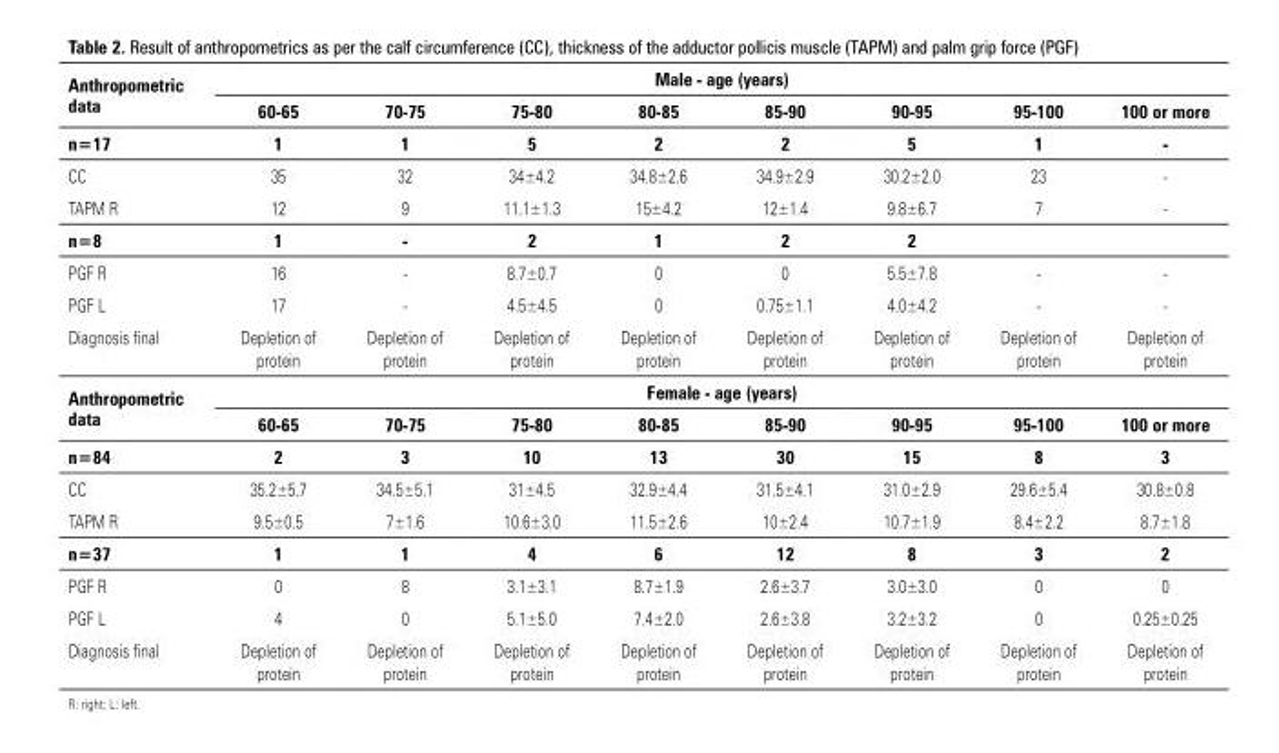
<table><thead><tr><td rowspan="3">Anthropometric data n=17</td><td colspan="8">Male - age (years)</td></tr><tr><td rowspan="2">60-65 1</td><td rowspan="2">70-75 1</td><td rowspan="2">75-80 5</td><td rowspan="2">80-85 2</td><td rowspan="2">85-90 2</td><td rowspan="2">90-95 5</td><td rowspan="2">95-100 1</td><td rowspan="2">100 or more -</td></tr><tr></tr></thead><tbody><tr><td>CC</td><td>35</td><td>32</td><td>34±4.2</td><td>34.8±2.6</td><td>34.9±2.9</td><td>30.2±2.0</td><td>23</td><td>-</td></tr><tr><td>TAPM R</td><td>12</td><td>9</td><td>11.1±1.3</td><td>15±4.2</td><td>12±1.4</td><td>9.8±6.7</td><td>7</td><td>-</td></tr><tr><td>n=8</td><td>1</td><td>-</td><td>2</td><td>1</td><td>2</td><td>2</td><td></td><td></td></tr><tr><td>PGF R</td><td>16</td><td>-</td><td>8.7±0.7</td><td>0</td><td>0</td><td>5.5±7.8</td><td>-</td><td>-</td></tr><tr><td>PGF L</td><td>17</td><td>-</td><td>4.5±4.5</td><td>0</td><td>0.75±1.1</td><td>4.0±4.2</td><td>-</td><td>-</td></tr><tr><td>Diagnosis final</td><td>Depletion of protein</td><td>Depletion of protein</td><td>Depletion of protein</td><td>Depletion of protein</td><td>Depletion of protein</td><td>Depletion of protein</td><td>Depletion of protein</td><td>Depletion of protein</td></tr><tr><td rowspan="2">Anthropometric data</td><td colspan="8">Female - age (years)</td></tr><tr><td>60-65</td><td>70-75</td><td>75-80</td><td>80-85</td><td>85-90</td><td>90-95</td><td>95-100</td><td>100 or more</td></tr><tr><td>n=84</td><td>2</td><td>3</td><td>10</td><td>13</td><td>30</td><td>15</td><td>8</td><td>3</td></tr><tr><td>CC</td><td>35.2±5.7</td><td>34.5±5.1</td><td>31±4.5</td><td>32.9±4.4</td><td>31.5±4.1</td><td>31.0±2.9</td><td>29.6±5.4</td><td>30.8±0.8</td></tr><tr><td>TAPM R</td><td>9.5±0.5</td><td>7±1.6</td><td>10.6±3.0</td><td>11.5±2.6</td><td>10±2.4</td><td>10.7±1.9</td><td>8.4±2.2</td><td>8.7±1.8</td></tr><tr><td>n=37</td><td>1</td><td>1</td><td>4</td><td>6</td><td>12</td><td>8</td><td>3</td><td>2</td></tr><tr><td>PGF R</td><td>0</td><td>8</td><td>3.1±3.1</td><td>8.7±1.9</td><td>2.6±3.7</td><td>3.0±3.0</td><td>0</td><td>0</td></tr><tr><td>PGF L</td><td>4</td><td>0</td><td>5.1±5.0</td><td>7.4±2.0</td><td>2.6±3.8</td><td>3.2±3.2</td><td>0</td><td>0.25±0.25</td></tr><tr><td>Diagnosis final</td><td>Depletion of protein</td><td>Depletion of protein</td><td>Depletion of protein</td><td>Depletion of protein</td><td>Depletion of protein</td><td>Depletion of protein</td><td>Depletion of protein</td><td>Depletion of protein</td></tr></tbody></table>